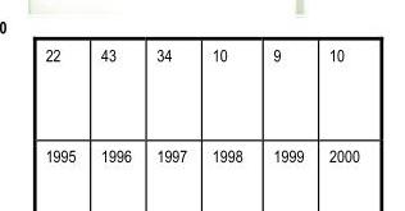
<table><tbody><tr><td>22</td><td>43</td><td>34</td><td>10</td><td>9</td><td>10</td></tr><tr><td>1995</td><td>1996</td><td>1997</td><td>1998</td><td>1999</td><td>2000</td></tr></tbody></table>